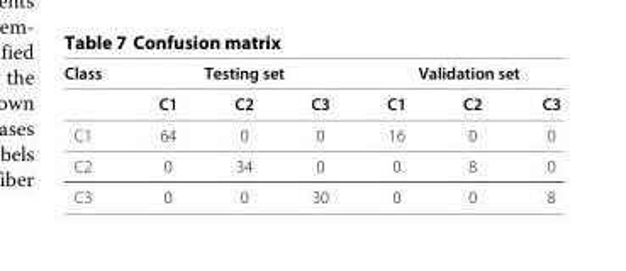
<table><thead><tr><td rowspan="2">Class</td><td colspan="3">Testing set</td><td colspan="3">Validation set</td></tr><tr><td>C1</td><td>C2</td><td>C3</td><td>C1</td><td>C2</td><td>C3</td></tr></thead><tbody><tr><td>C1</td><td>64</td><td>0</td><td>0</td><td>16</td><td>0</td><td>0</td></tr><tr><td>C2</td><td>0</td><td>34</td><td>0</td><td>0</td><td>8</td><td>0</td></tr><tr><td>C3</td><td>0</td><td>0</td><td>30</td><td>0</td><td>0</td><td>8</td></tr></tbody></table>